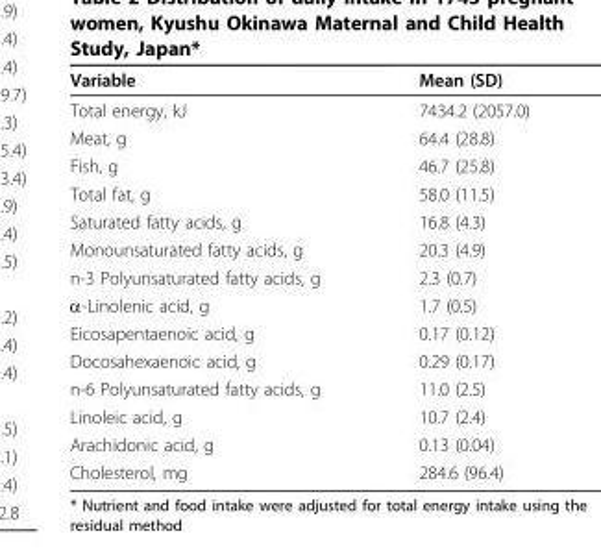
<table><thead><tr><td>Variable</td><td>Mean (SD)</td></tr></thead><tbody><tr><td>Total energy, kJ</td><td>7434.2 (2057.0)</td></tr><tr><td>Meat, g</td><td>64.4 (28.8)</td></tr><tr><td>Fish, g</td><td>46.7 (25.8)</td></tr><tr><td>Total fat, g</td><td>58.0 (11.5)</td></tr><tr><td>Saturated fatty acids, g</td><td>16.8 (4.3)</td></tr><tr><td>Monounsaturated fatty acids, g</td><td>20.3 (4.9)</td></tr><tr><td>n-3 Polyunsaturated fatty acids, g</td><td>2.3 (0.7)</td></tr><tr><td>α-Linolenic acid, g</td><td>1.7 (0.5)</td></tr><tr><td>Eicosapentaenoic acid, g</td><td>0.17 (0.12)</td></tr><tr><td>Docosahexaenoic acid, g</td><td>0.29 (0.17)</td></tr><tr><td>n-6 Polyunsaturated fatty acids, g</td><td>11.0 (2.5)</td></tr><tr><td>Linoleic acid, g</td><td>10.7 (2.4)</td></tr><tr><td>Arachidonic acid, g</td><td>0.13 (0.04)</td></tr><tr><td>Cholesterol, mg</td><td>284.6 (96.4)</td></tr></tbody></table>